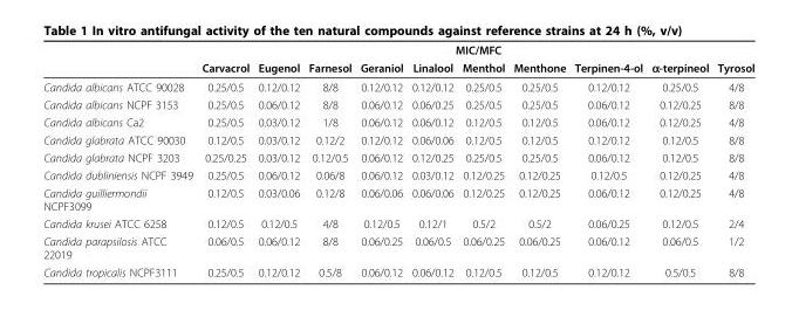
<table><thead><tr><td rowspan="2"></td><td colspan="10">MIC/MFC</td></tr><tr><td>Carvacrol</td><td>Eugenol</td><td>Farnesol</td><td>Geraniol</td><td>Linalool</td><td>Menthol</td><td>Menthone</td><td>Terpinen-4-ol</td><td>α-terpineol</td><td>Tyrosol</td></tr></thead><tbody><tr><td>Candida albicans ATCC 90028</td><td>0.25/0.5</td><td>0.12/0.12</td><td>8/8</td><td>0.12/0.12</td><td>0.12/0.12</td><td>0.25/0.5</td><td>0.25/0.5</td><td>0.12/0.12</td><td>0.25/0.5</td><td>4/8</td></tr><tr><td>Candida albicans NCPF 3153</td><td>0.25/0.5</td><td>0.06/0.12</td><td>8/8</td><td>0.06/0.12</td><td>0.06/0.25</td><td>0.25/0.5</td><td>0.25/0.5</td><td>0.06/0.12</td><td>0.12/0.25</td><td>8/8</td></tr><tr><td>Candida albicans Ca2</td><td>0.25/0.5</td><td>0.03/0.12</td><td>1/8</td><td>0.06/0.12</td><td>0.06/0.12</td><td>0.12/0.5</td><td>0.12/0.5</td><td>0.06/0.12</td><td>0.12/0.25</td><td>4/8</td></tr><tr><td>Candida glabrata ATCC 90030</td><td>0.12/0.5</td><td>0.03/0.12</td><td>0.12/2</td><td>0.12/0.12</td><td>0.06/0.06</td><td>0.12/0.5</td><td>0.12/0.5</td><td>0.12/0.12</td><td>0.12/0.5</td><td>8/8</td></tr><tr><td>Candida glabrata NCPF 3203</td><td>0.25/0.25</td><td>0.03/0.12</td><td>0.12/0.5</td><td>0.06/0.12</td><td>0.12/0.25</td><td>0.25/0.5</td><td>0.25/0.5</td><td>0.06/0.12</td><td>0.12/0.5</td><td>8/8</td></tr><tr><td>Candida dubliniensis NCPF 3949</td><td>0.25/0.5</td><td>0.06/0.12</td><td>0.06/8</td><td>0.06/0.12</td><td>0.03/0.12</td><td>0.12/0.25</td><td>0.12/0.25</td><td>0.12/0.5</td><td>0.12/0.25</td><td>4/8</td></tr><tr><td>Candida guilliermondii NCPF3099</td><td>0.12/0.5</td><td>0.03/0.06</td><td>0.12/8</td><td>0.06/0.06</td><td>0.06/0.06</td><td>0.12/0.25</td><td>0.12/0.25</td><td>0.06/0.12</td><td>0.12/0.25</td><td>4/8</td></tr><tr><td>Candida krusei ATCC 6258</td><td>0.12/0.5</td><td>0.12/0.5</td><td>4/8</td><td>0.12/0.5</td><td>0.12/1</td><td>0.5/2</td><td>0.5/2</td><td>0.06/0.25</td><td>0.12/0.5</td><td>2/4</td></tr><tr><td>Candida parapsilosis ATCC 22019</td><td>0.06/0.5</td><td>0.06/0.12</td><td>8/8</td><td>0.06/0.25</td><td>0.06/0.5</td><td>0.06/0.25</td><td>0.06/0.25</td><td>0.06/0.12</td><td>0.06/0.5</td><td>1/2</td></tr><tr><td>Candida tropicalis NCPF3111</td><td>0.25/0.5</td><td>0.12/0.12</td><td>0.5/8</td><td>0.06/0.12</td><td>0.06/0.12</td><td>0.12/0.5</td><td>0.12/0.5</td><td>0.12/0.12</td><td>0.5/0.5</td><td>8/8</td></tr></tbody></table>